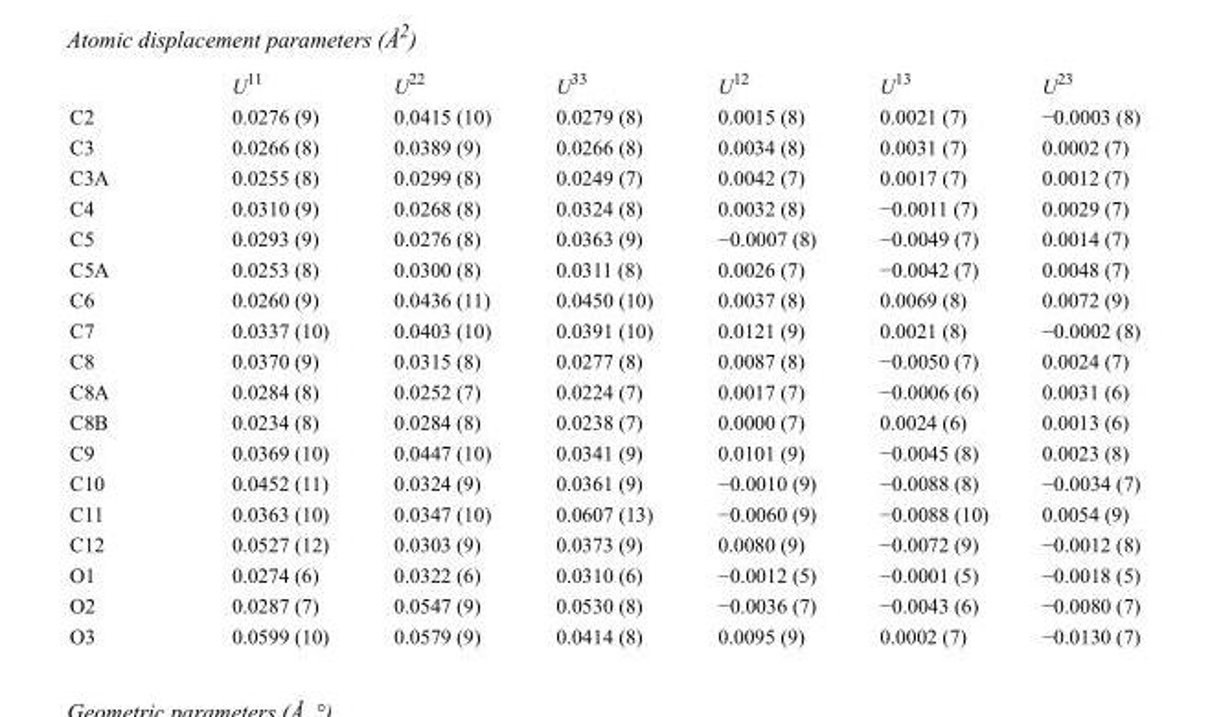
<table><thead><tr><td></td><td>U<sup>11</sup></td><td>U<sup>22</sup></td><td>U<sup>33</sup></td><td>U<sup>12</sup></td><td>U<sup>13</sup></td><td>U<sup>23</sup></td></tr></thead><tbody><tr><td>C2</td><td>0.0276 (9)</td><td>0.0415 (10)</td><td>0.0279 (8)</td><td>0.0015 (8)</td><td>0.0021 (7)</td><td>−0.0003 (8)</td></tr><tr><td>C3</td><td>0.0266 (8)</td><td>0.0389 (9)</td><td>0.0266 (8)</td><td>0.0034 (8)</td><td>0.0031 (7)</td><td>0.0002 (7)</td></tr><tr><td>C3A</td><td>0.0255 (8)</td><td>0.0299 (8)</td><td>0.0249 (7)</td><td>0.0042 (7)</td><td>0.0017 (7)</td><td>0.0012 (7)</td></tr><tr><td>C4</td><td>0.0310 (9)</td><td>0.0268 (8)</td><td>0.0324 (8)</td><td>0.0032 (8)</td><td>−0.0011 (7)</td><td>0.0029 (7)</td></tr><tr><td>C5</td><td>0.0293 (9)</td><td>0.0276 (8)</td><td>0.0363 (9)</td><td>−0.0007 (8)</td><td>−0.0049 (7)</td><td>0.0014 (7)</td></tr><tr><td>C5A</td><td>0.0253 (8)</td><td>0.0300 (8)</td><td>0.0311 (8)</td><td>0.0026 (7)</td><td>−0.0042 (7)</td><td>0.0048 (7)</td></tr><tr><td>C6</td><td>0.0260 (9)</td><td>0.0436 (11)</td><td>0.0450 (10)</td><td>0.0037 (8)</td><td>0.0069 (8)</td><td>0.0072 (9)</td></tr><tr><td>C7</td><td>0.0337 (10)</td><td>0.0403 (10)</td><td>0.0391 (10)</td><td>0.0121 (9)</td><td>0.0021 (8)</td><td>−0.0002 (8)</td></tr><tr><td>C8</td><td>0.0370 (9)</td><td>0.0315 (8)</td><td>0.0277 (8)</td><td>0.0087 (8)</td><td>−0.0050 (7)</td><td>0.0024 (7)</td></tr><tr><td>C8A</td><td>0.0284 (8)</td><td>0.0252 (7)</td><td>0.0224 (7)</td><td>0.0017 (7)</td><td>−0.0006 (6)</td><td>0.0031 (6)</td></tr><tr><td>C8B</td><td>0.0234 (8)</td><td>0.0284 (8)</td><td>0.0238 (7)</td><td>0.0000 (7)</td><td>0.0024 (6)</td><td>0.0013 (6)</td></tr><tr><td>C9</td><td>0.0369 (10)</td><td>0.0447 (10)</td><td>0.0341 (9)</td><td>0.0101 (9)</td><td>−0.0045 (8)</td><td>0.0023 (8)</td></tr><tr><td>C10</td><td>0.0452 (11)</td><td>0.0324 (9)</td><td>0.0361 (9)</td><td>−0.0010 (9)</td><td>−0.0088 (8)</td><td>−0.0034 (7)</td></tr><tr><td>C11</td><td>0.0363 (10)</td><td>0.0347 (10)</td><td>0.0607 (13)</td><td>−0.0060 (9)</td><td>−0.0088 (10)</td><td>0.0054 (9)</td></tr><tr><td>C12</td><td>0.0527 (12)</td><td>0.0303 (9)</td><td>0.0373 (9)</td><td>0.0080 (9)</td><td>−0.0072 (9)</td><td>−0.0012 (8)</td></tr><tr><td>O1</td><td>0.0274 (6)</td><td>0.0322 (6)</td><td>0.0310 (6)</td><td>−0.0012 (5)</td><td>−0.0001 (5)</td><td>−0.0018 (5)</td></tr><tr><td>O2</td><td>0.0287 (7)</td><td>0.0547 (9)</td><td>0.0530 (8)</td><td>−0.0036 (7)</td><td>−0.0043 (6)</td><td>−0.0080 (7)</td></tr><tr><td>O3</td><td>0.0599 (10)</td><td>0.0579 (9)</td><td>0.0414 (8)</td><td>0.0095 (9)</td><td>0.0002 (7)</td><td>−0.0130 (7)</td></tr></tbody></table>